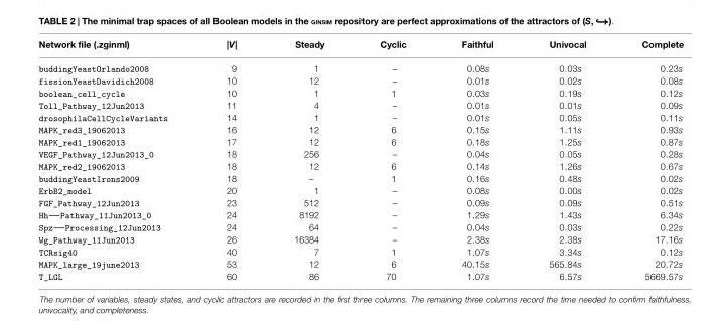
<table><thead><tr><td>Network file (.zginml)</td><td>|V|</td><td>Steady</td><td>Cyclic</td><td>Faithful</td><td>Univocal</td><td>Complete</td></tr></thead><tbody><tr><td>buddingYeastOrlando2008</td><td>9</td><td>1</td><td>–</td><td>0.08s</td><td>0.03s</td><td>0.23s</td></tr><tr><td>fissionYeastDavidich2008</td><td>10</td><td>12</td><td>–</td><td>0.01s</td><td>0.02s</td><td>0.08s</td></tr><tr><td>boolean_cell_cycle</td><td>10</td><td>1</td><td>1</td><td>0.03s</td><td>0.19s</td><td>0.12s</td></tr><tr><td>Toll_Pathway_12Jun2013</td><td>11</td><td>4</td><td>–</td><td>0.01s</td><td>0.01s</td><td>0.09s</td></tr><tr><td>drosophilaCellCycleVariants</td><td>14</td><td>1</td><td>–</td><td>0.01s</td><td>0.05s</td><td>0.11s</td></tr><tr><td>MAPK_red3_19062013</td><td>16</td><td>12</td><td>6</td><td>0.15s</td><td>1.11s</td><td>0.93s</td></tr><tr><td>MAPK_red1_19062013</td><td>17</td><td>12</td><td>6</td><td>0.18s</td><td>1.25s</td><td>0.87s</td></tr><tr><td>VEGF_Pathway_12Jun2013_0</td><td>18</td><td>256</td><td>–</td><td>0.04s</td><td>0.05s</td><td>0.28s</td></tr><tr><td>MAPK_red2_19062013</td><td>18</td><td>12</td><td>6</td><td>0.14s</td><td>1.26s</td><td>0.67s</td></tr><tr><td>buddingYeastIrons2009</td><td>18</td><td>–</td><td>1</td><td>0.16s</td><td>0.48s</td><td>0.02s</td></tr><tr><td>ErbB2_model</td><td>20</td><td>1</td><td>–</td><td>0.08s</td><td>0.00s</td><td>0.02s</td></tr><tr><td>FGF_Pathway_12Jun2013</td><td>23</td><td>512</td><td>–</td><td>0.09s</td><td>0.09s</td><td>0.51s</td></tr><tr><td>Hh---Pathway_11Jun2013_0</td><td>24</td><td>8192</td><td>–</td><td>1.29s</td><td>1.43s</td><td>6.34s</td></tr><tr><td>Spz---Processing_12Jun2013</td><td>24</td><td>64</td><td>–</td><td>0.04s</td><td>0.03s</td><td>0.22s</td></tr><tr><td>Wg_Pathway_11Jun2013</td><td>26</td><td>16384</td><td>–</td><td>2.38s</td><td>2.38s</td><td>17.16s</td></tr><tr><td>TCRsig40</td><td>40</td><td>7</td><td>1</td><td>1.07s</td><td>3.34s</td><td>0.12s</td></tr><tr><td>MAPK_large_19june2013</td><td>53</td><td>12</td><td>6</td><td>40.15s</td><td>565.84s</td><td>20.72s</td></tr><tr><td>T_LGL</td><td>60</td><td>86</td><td>70</td><td>1.07s</td><td>6.57s</td><td>5669.57s</td></tr></tbody></table>